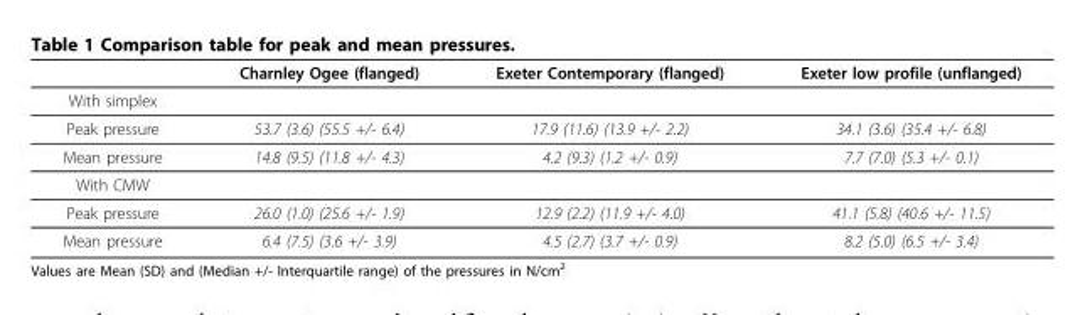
<table><thead><tr><td></td><td>Charnley Ogee (flanged)</td><td>Exeter Contemporary (flanged)</td><td>Exeter low profile (unflanged)</td></tr></thead><tbody><tr><td colspan="4">With simplex</td></tr><tr><td>Peak pressure</td><td>53.7 (3.6) (55.5 +/- 6.4)</td><td>17.9 (11.6) (13.9 +/- 2.2)</td><td>34.1 (3.6) (35.4 +/- 6.8)</td></tr><tr><td>Mean pressure</td><td>14.8 (9.5) (11.8 +/- 4.3)</td><td>4.2 (9.3) (1.2 +/- 0.9)</td><td>7.7 (7.0) (5.3 +/- 0.1)</td></tr><tr><td colspan="4">With CMW</td></tr><tr><td>Peak pressure</td><td>26.0 (1.0) (25.6 +/- 1.9)</td><td>12.9 (2.2) (11.9 +/- 4.0)</td><td>41.1 (5.8) (40.6 +/- 11.5)</td></tr><tr><td>Mean pressure</td><td>6.4 (7.5) (3.6 +/- 3.9)</td><td>4.5 (2.7) (3.7 +/- 0.9)</td><td>8.2 (5.0) (6.5 +/- 3.4)</td></tr></tbody></table>